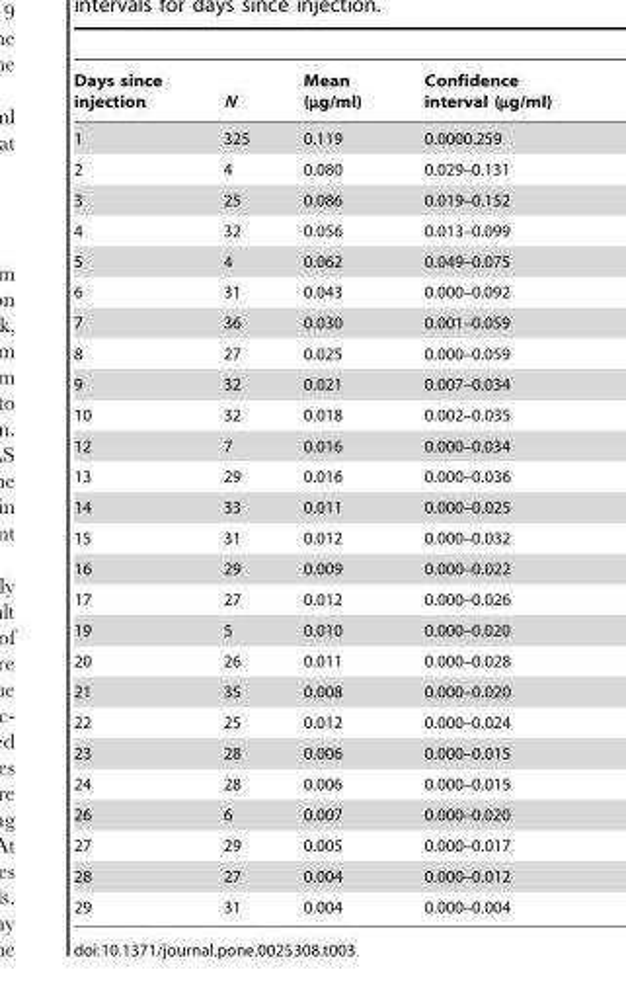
<table><thead><tr><td>Days since injection</td><td>N</td><td>Mean (µg/ml)</td><td>Confidence interval (µg/ml)</td></tr></thead><tbody><tr><td>1</td><td>325</td><td>0.119</td><td>0.0000.259</td></tr><tr><td>2</td><td>4</td><td>0.080</td><td>0.029–0.131</td></tr><tr><td>3</td><td>25</td><td>0.086</td><td>0.019–0.152</td></tr><tr><td>4</td><td>32</td><td>0.056</td><td>0.013–0.099</td></tr><tr><td>5</td><td>4</td><td>0.062</td><td>0.049–0.075</td></tr><tr><td>6</td><td>31</td><td>0.043</td><td>0.000–0.092</td></tr><tr><td>7</td><td>36</td><td>0.030</td><td>0.001–0.059</td></tr><tr><td>8</td><td>27</td><td>0.025</td><td>0.000–0.059</td></tr><tr><td>9</td><td>32</td><td>0.021</td><td>0.007–0.034</td></tr><tr><td>10</td><td>32</td><td>0.018</td><td>0.002–0.035</td></tr><tr><td>12</td><td>7</td><td>0.016</td><td>0.000–0.034</td></tr><tr><td>13</td><td>29</td><td>0.016</td><td>0.000–0.036</td></tr><tr><td>14</td><td>33</td><td>0.011</td><td>0.000–0.025</td></tr><tr><td>15</td><td>31</td><td>0.012</td><td>0.000–0.032</td></tr><tr><td>16</td><td>29</td><td>0.009</td><td>0.000–0.022</td></tr><tr><td>17</td><td>27</td><td>0.012</td><td>0.000–0.026</td></tr><tr><td>19</td><td>5</td><td>0.010</td><td>0.000–0.020</td></tr><tr><td>20</td><td>26</td><td>0.011</td><td>0.000–0.028</td></tr><tr><td>21</td><td>35</td><td>0.008</td><td>0.000–0.020</td></tr><tr><td>22</td><td>25</td><td>0.012</td><td>0.000–0.024</td></tr><tr><td>23</td><td>28</td><td>0.006</td><td>0.000–0.015</td></tr><tr><td>24</td><td>28</td><td>0.006</td><td>0.000–0.015</td></tr><tr><td>26</td><td>6</td><td>0.007</td><td>0.000–0.020</td></tr><tr><td>27</td><td>29</td><td>0.005</td><td>0.000–0.017</td></tr><tr><td>28</td><td>27</td><td>0.004</td><td>0.000–0.012</td></tr><tr><td>29</td><td>31</td><td>0.004</td><td>0.000–0.004</td></tr></tbody></table>